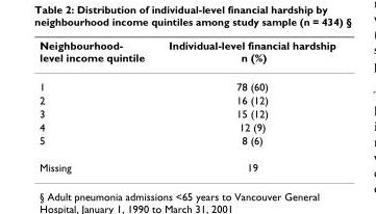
<table><thead><tr><td>Neighbourhood- level income quintile</td><td>Individual-level financial hardship n (%)</td></tr></thead><tbody><tr><td>1</td><td>78 (60)</td></tr><tr><td>2</td><td>16 (12)</td></tr><tr><td>3</td><td>15 (12)</td></tr><tr><td>4</td><td>12 (9)</td></tr><tr><td>5</td><td>8 (6)</td></tr><tr><td>Missing</td><td>19</td></tr></tbody></table>